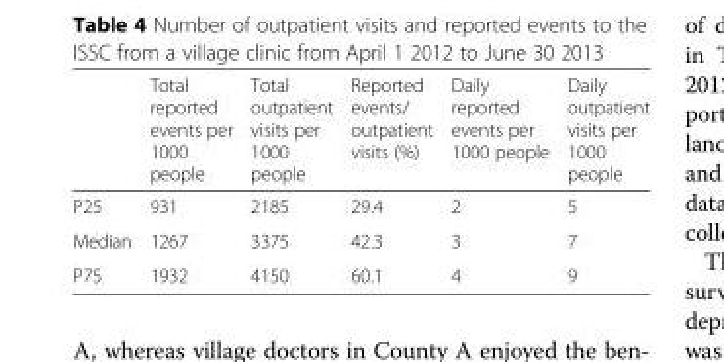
<table><thead><tr><td></td><td>Total reported events per 1000 people</td><td>Total outpatient visits per 1000 people</td><td>Reported events/ outpatient visits (%)</td><td>Daily reported events per 1000 people</td><td>Daily outpatient visits per 1000 people</td></tr></thead><tbody><tr><td>P25</td><td>931</td><td>2185</td><td>29.4</td><td>2</td><td>5</td></tr><tr><td>Median</td><td>1267</td><td>3375</td><td>42.3</td><td>3</td><td>7</td></tr><tr><td>P75</td><td>1932</td><td>4150</td><td>60.1</td><td>4</td><td>9</td></tr></tbody></table>